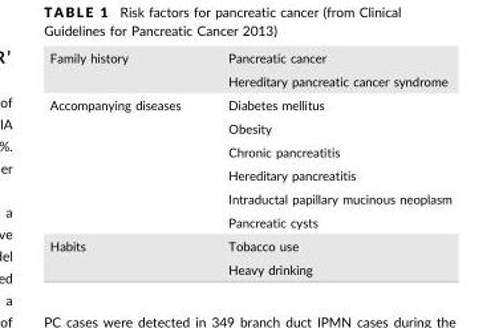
<table><tbody><tr><td rowspan="2">Family history</td><td>Pancreatic cancer</td></tr><tr><td>Hereditary pancreatic cancer syndrome</td></tr><tr><td rowspan="6">Accompanying diseases</td><td>Diabetes mellitus</td></tr><tr><td>Obesity</td></tr><tr><td>Chronic pancreatitis</td></tr><tr><td>Hereditary pancreatitis</td></tr><tr><td>Intraductal papillary mucinous neoplasm</td></tr><tr><td>Pancreatic cysts</td></tr><tr><td rowspan="2">Habits</td><td>Tobacco use</td></tr><tr><td>Heavy drinking</td></tr></tbody></table>